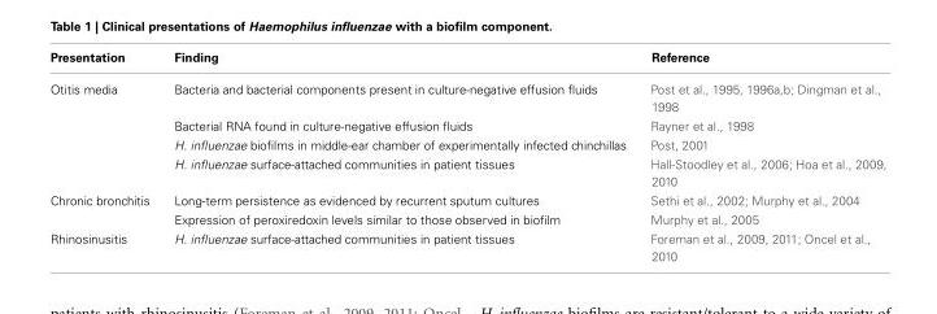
<table><thead><tr><td>Presentation</td><td>Finding</td><td>Reference</td></tr></thead><tbody><tr><td rowspan="4">Otitis media</td><td>Bacteria and bacterial components present in culture-negative effusion fluids</td><td>Post et al., 1995, 1996a,b; Dingman et al., 1998</td></tr><tr><td>Bacterial RNA found in culture-negative effusion fluids</td><td>Rayner et al., 1998</td></tr><tr><td>H. influenzae biofilms in middle-ear chamber of experimentally infected chinchillas</td><td>Post, 2001</td></tr><tr><td>H. influenzae surface-attached communities in patient tissues</td><td>Hall-Stoodley et al., 2006; Hoa et al., 2009, 2010</td></tr><tr><td rowspan="2">Chronic bronchitis</td><td>Long-term persistence as evidenced by recurrent sputum cultures</td><td>Sethi et al., 2002; Murphy et al., 2004</td></tr><tr><td>Expression of peroxiredoxin levels similar to those observed in biofilm</td><td>Murphy et al., 2005</td></tr><tr><td>Rhinosinusitis</td><td>H. influenzae surface-attached communities in patient tissues</td><td>Foreman et al., 2009, 2011; Oncel et al., 2010</td></tr></tbody></table>